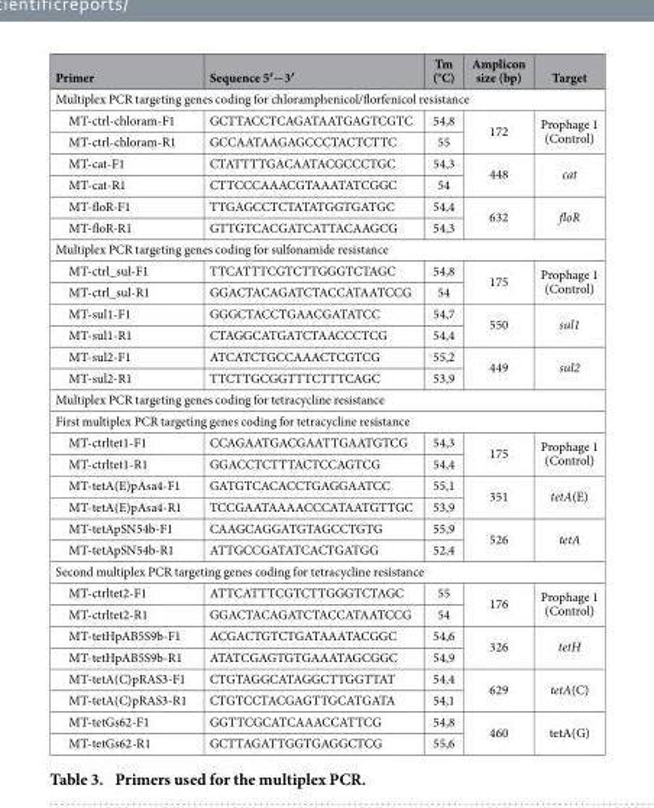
<table><thead><tr><td>Primer</td><td>Sequence 5′−3′</td><td>Tm (°C)</td><td>Amplicon size (bp)</td><td>Target</td></tr></thead><tbody><tr><td colspan="5">Multiplex PCR targeting genes coding for chloramphenicol/florfenicol resistance</td></tr><tr><td>MT-ctrl-chloram-F1</td><td>GCTTACCTCAGATAATGAGTCGTC</td><td>54,8</td><td rowspan="2">172</td><td rowspan="2">Prophage 1 (Control)</td></tr><tr><td>MT-ctrl-chloram-R1</td><td>GCCAATAAGAGCCCTACTCTTC</td><td>55</td></tr><tr><td>MT-cat-F1</td><td>CTATTTTGACAATACGCCCTGC</td><td>54,3</td><td rowspan="2">448</td><td rowspan="2">cat</td></tr><tr><td>MT-cat-R1</td><td>CTTCCCAAACGTAAATATCGGC</td><td>54</td></tr><tr><td>MT-floR-F1</td><td>TTGAGCCTCTATATGGTGATGC</td><td>54,4</td><td rowspan="2">632</td><td rowspan="2">floR</td></tr><tr><td>MT-floR-R1</td><td>GTTGTCACGATCATTACAAGCG</td><td>54,3</td></tr><tr><td colspan="5">Multiplex PCR targeting genes coding for sulfonamide resistance</td></tr><tr><td>MT-ctrl_sul-F1</td><td>TTCATTTCGTCTTGGGTCTAGC</td><td>54,8</td><td rowspan="2">175</td><td rowspan="2">Prophage 1 (Control)</td></tr><tr><td>MT-ctrl_sul-R1</td><td>GGACTACAGATCTACCATAATCCG</td><td>54</td></tr><tr><td>MT-sul1-F1</td><td>GGGCTACCTGAACGATATCC</td><td>54,7</td><td rowspan="2">550</td><td rowspan="2">sul1</td></tr><tr><td>MT-sul1-R1</td><td>CTAGGCATGATCTAACCCTCG</td><td>54,4</td></tr><tr><td>MT-sul2-F1</td><td>ATCATCTGCCAAACTCGTCG</td><td>55,2</td><td rowspan="2">449</td><td rowspan="2">sul2</td></tr><tr><td>MT-sul2-R1</td><td>TTCTTGCGGTTTCTTTCAGC</td><td>53,9</td></tr><tr><td colspan="5">Multiplex PCR targeting genes coding for tetracycline resistance</td></tr><tr><td colspan="5">First multiplex PCR targeting genes coding for tetracycline resistance</td></tr><tr><td>MT-ctrltet1-F1</td><td>CCAGAATGACGAATTGAATGTCG</td><td>54,3</td><td rowspan="2">175</td><td rowspan="2">Prophage 1 (Control)</td></tr><tr><td>MT-ctrltet1-R1</td><td>GGACCTCTTTACTCCAGTCG</td><td>54,4</td></tr><tr><td>MT-tetA(E)pAsa4-F1</td><td>GATGTCACACCTGAGGAATCC</td><td>55,1</td><td rowspan="2">351</td><td rowspan="2">tetA(E)</td></tr><tr><td>MT-tetA(E)pAsa4-R1</td><td>TCCGAATAAAACCCATAATGTTGC</td><td>53,9</td></tr><tr><td>MT-tetApSN54b-F1</td><td>CAAGCAGGATGTAGCCTGTG</td><td>55,9</td><td rowspan="2">526</td><td rowspan="2">tetA</td></tr><tr><td>MT-tetApSN54b-R1</td><td>ATTGCCGATATCACTGATGG</td><td>52,4</td></tr><tr><td colspan="5">Second multiplex PCR targeting genes coding for tetracycline resistance</td></tr><tr><td>MT-ctrltet2-F1</td><td>ATTCATTTCGTCTTGGGTCTAGC</td><td>55</td><td rowspan="2">176</td><td rowspan="2">Prophage 1 (Control)</td></tr><tr><td>MT-ctrltet2-R1</td><td>GGACTACAGATCTACCATAATCCG</td><td>54</td></tr><tr><td>MT-tetHpAB5S9b-F1</td><td>ACGACTGTCTGATAAATACGGC</td><td>54,6</td><td rowspan="2">326</td><td rowspan="2">tetH</td></tr><tr><td>MT-tetHpAB5S9b-R1</td><td>ATATCGAGTGTGAAATAGCGGC</td><td>54,9</td></tr><tr><td>MT-tetA(C)pRAS3-F1</td><td>CTGTAGGCATAGGCTTGGTTAT</td><td>54,4</td><td rowspan="2">629</td><td rowspan="2">tetA(C)</td></tr><tr><td>MT-tetA(C)pRAS3-R1</td><td>CTGTCCTACGAGTTGCATGATA</td><td>54,1</td></tr><tr><td>MT-tetGs62-F1</td><td>GGTTCGCATCAAACCATTCG</td><td>54,8</td><td rowspan="2">460</td><td rowspan="2">tetA(G)</td></tr><tr><td>MT-tetGs62-R1</td><td>GCTTAGATTGGTGAGGCTCG</td><td>55,6</td></tr></tbody></table>